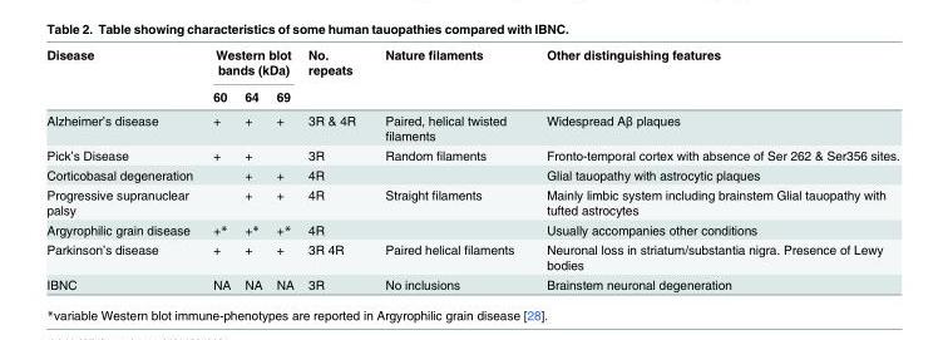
<table><thead><tr><td rowspan="2">Disease</td><td colspan="3">Western blot bands (kDa)</td><td rowspan="2">No. repeats</td><td rowspan="2">Nature filaments</td><td rowspan="2">Other distinguishing features</td></tr><tr><td>60</td><td>64</td><td>69</td></tr></thead><tbody><tr><td>Alzheimer’s disease</td><td>+</td><td>+</td><td>+</td><td>3R &amp; 4R</td><td>Paired, helical twisted filaments</td><td>Widespread Aβ plaques</td></tr><tr><td>Pick’s Disease</td><td>+</td><td>+</td><td></td><td>3R</td><td>Random filaments</td><td>Fronto-temporal cortex with absence of Ser 262 &amp; Ser356 sites.</td></tr><tr><td>Corticobasal degeneration</td><td></td><td>+</td><td>+</td><td>4R</td><td></td><td>Glial tauopathy with astrocytic plaques</td></tr><tr><td>Progressive supranuclear palsy</td><td></td><td>+</td><td>+</td><td>4R</td><td>Straight filaments</td><td>Mainly limbic system including brainstem Glial tauopathy with tufted astrocytes</td></tr><tr><td>Argyrophilic grain disease</td><td>+*</td><td>+*</td><td>+*</td><td>4R</td><td></td><td>Usually accompanies other conditions</td></tr><tr><td>Parkinson’s disease</td><td>+</td><td>+</td><td>+</td><td>3R 4R</td><td>Paired helical filaments</td><td>Neuronal loss in striatum/substantia nigra. Presence of Lewy bodies</td></tr><tr><td>IBNC</td><td>NA</td><td>NA</td><td>NA</td><td>3R</td><td>No inclusions</td><td>Brainstem neuronal degeneration</td></tr></tbody></table>